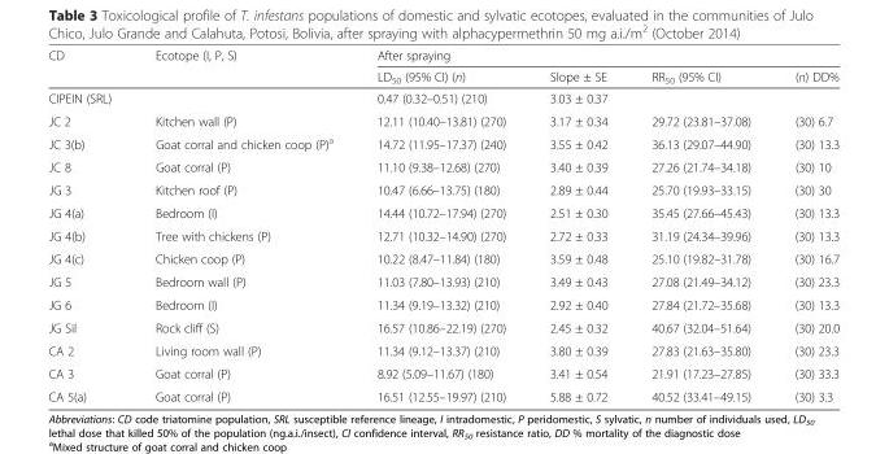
<table><thead><tr><td rowspan="2">CD</td><td rowspan="2">Ecotope (I, P, S)</td><td colspan="4">After spraying</td></tr><tr><td>LD<sub>50</sub> (95% CI) (n)</td><td>Slope ± SE</td><td>RR<sub>50</sub> (95% CI)</td><td>(n) DD%</td></tr></thead><tbody><tr><td>CIPEIN (SRL)</td><td></td><td>0.47 (0.32–0.51) (210)</td><td>3.03 ± 0.37</td><td></td><td></td></tr><tr><td>JC 2</td><td>Kitchen wall (P)</td><td>12.11 (10.40–13.81) (270)</td><td>3.17 ± 0.34</td><td>29.72 (23.81–37.08)</td><td>(30) 6.7</td></tr><tr><td>JC 3(b)</td><td>Goat corral and chicken coop (P)<sup>a</sup></td><td>14.72 (11.95–17.37) (240)</td><td>3.55 ± 0.42</td><td>36.13 (29.07–44.90)</td><td>(30) 13.3</td></tr><tr><td>JC 8</td><td>Goat corral (P)</td><td>11.10 (9.38–12.68) (270)</td><td>3.40 ± 0.39</td><td>27.26 (21.74–34.18)</td><td>(30) 10</td></tr><tr><td>JG 3</td><td>Kitchen roof (P)</td><td>10.47 (6.66–13.75) (180)</td><td>2.89 ± 0.44</td><td>25.70 (19.93–33.15)</td><td>(30) 30</td></tr><tr><td>JG 4(a)</td><td>Bedroom (I)</td><td>14.44 (10.72–17.94) (270)</td><td>2.51 ± 0.30</td><td>35.45 (27.66–45.43)</td><td>(30) 13.3</td></tr><tr><td>JG 4(b)</td><td>Tree with chickens (P)</td><td>12.71 (10.32–14.90) (270)</td><td>2.72 ± 0.33</td><td>31.19 (24.34–39.96)</td><td>(30) 13.3</td></tr><tr><td>JG 4(c)</td><td>Chicken coop (P)</td><td>10.22 (8.47–11.84) (180)</td><td>3.59 ± 0.48</td><td>25.10 (19.82–31.78)</td><td>(30) 16.7</td></tr><tr><td>JG 5</td><td>Bedroom wall (P)</td><td>11.03 (7.80–13.93) (210)</td><td>3.49 ± 0.43</td><td>27.08 (21.49–34.12)</td><td>(30) 23.3</td></tr><tr><td>JG 6</td><td>Bedroom (I)</td><td>11.34 (9.19–13.32) (210)</td><td>2.92 ± 0.40</td><td>27.84 (21.72–35.68)</td><td>(30) 13.3</td></tr><tr><td>JG Sil</td><td>Rock cliff (S)</td><td>16.57 (10.86–22.19) (270)</td><td>2.45 ± 0.32</td><td>40.67 (32.04–51.64)</td><td>(30) 20.0</td></tr><tr><td>CA 2</td><td>Living room wall (P)</td><td>11.34 (9.12–13.37) (210)</td><td>3.80 ± 0.39</td><td>27.83 (21.63–35.80)</td><td>(30) 23.3</td></tr><tr><td>CA 3</td><td>Goat corral (P)</td><td>8.92 (5.09–11.67) (180)</td><td>3.41 ± 0.54</td><td>21.91 (17.23–27.85)</td><td>(30) 33.3</td></tr><tr><td>CA 5(a)</td><td>Goat corral (P)</td><td>16.51 (12.55–19.97) (210)</td><td>5.88 ± 0.72</td><td>40.52 (33.41–49.15)</td><td>(30) 3.3</td></tr></tbody></table>